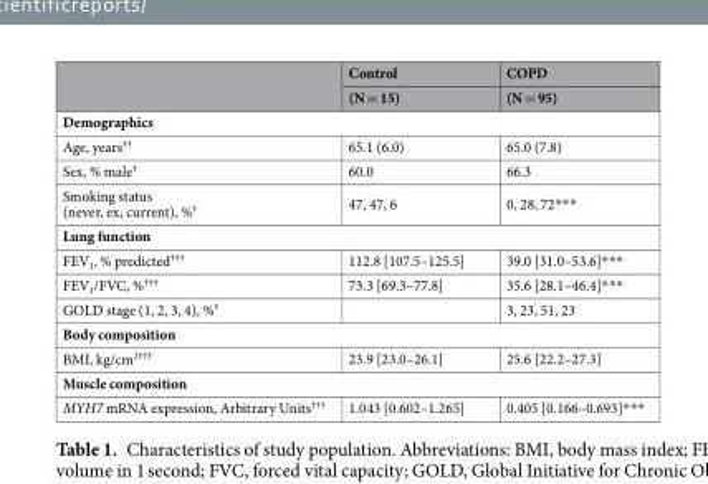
<table><thead><tr><td rowspan="2"></td><td rowspan="2">Control (N = 15)</td><td rowspan="2">COPD (N = 95)</td></tr><tr></tr></thead><tbody><tr><td colspan="3">Demographics</td></tr><tr><td>Age, years<sup>††</sup></td><td>65.1 (6.0)</td><td>65.0 (7.8)</td></tr><tr><td>Sex, % male<sup>†</sup></td><td>60.0</td><td>66.3</td></tr><tr><td>Smoking status (never, ex, current), %<sup>†</sup></td><td>47, 47, 6</td><td>0, 28, 72***</td></tr><tr><td colspan="3">Lung function</td></tr><tr><td>FEV<sub>1</sub>, % predicted<sup>†††</sup></td><td>112.8 [107.5–125.5]</td><td>39.0 [31.0–53.6]***</td></tr><tr><td>FEV<sub>1</sub>/FVC, %<sup>†††</sup></td><td>73.3 [69.3–77.8]</td><td>35.6 [28.1–46.4]***</td></tr><tr><td>GOLD stage (1, 2, 3, 4), %<sup>†</sup></td><td></td><td>3, 23, 51, 23</td></tr><tr><td colspan="3">Body composition</td></tr><tr><td>BMI, kg/cm<sup>2†††</sup></td><td>23.9 [23.0–26.1]</td><td>25.6 [22.2–27.3]</td></tr><tr><td colspan="3">Muscle composition</td></tr><tr><td>MYH7 mRNA expression, Arbitrary Units<sup>†††</sup></td><td>1.043 [0.602–1.265]</td><td>0.405 [0.166–0.693]***</td></tr></tbody></table>